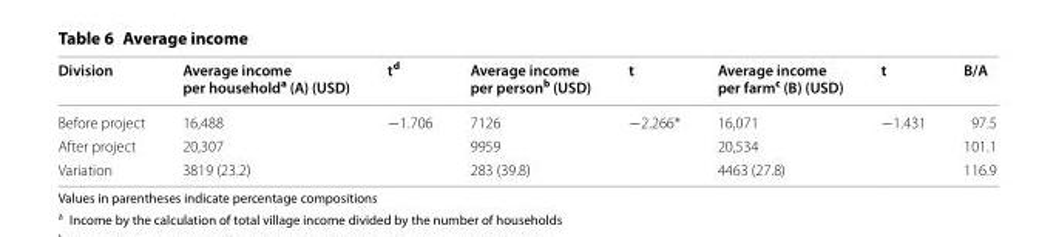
<table><thead><tr><td>Division</td><td>Average income per household<sup>a</sup> (A) (USD)</td><td>t<sup>d</sup></td><td>Average income per person<sup>b</sup> (USD)</td><td>t</td><td>Average income per farm<sup>c</sup> (B) (USD)</td><td>t</td><td>B/A</td></tr></thead><tbody><tr><td>Before project</td><td>16,488</td><td rowspan="2">−1.706</td><td>7126</td><td rowspan="2">−2.266*</td><td>16,071</td><td rowspan="2">−1.431</td><td>97.5</td></tr><tr><td>After project</td><td>20,307</td><td>9959</td><td>20,534</td><td>101.1</td></tr><tr><td>Variation</td><td>3819 (23.2)</td><td></td><td>283 (39.8)</td><td></td><td>4463 (27.8)</td><td></td><td>116.9</td></tr></tbody></table>